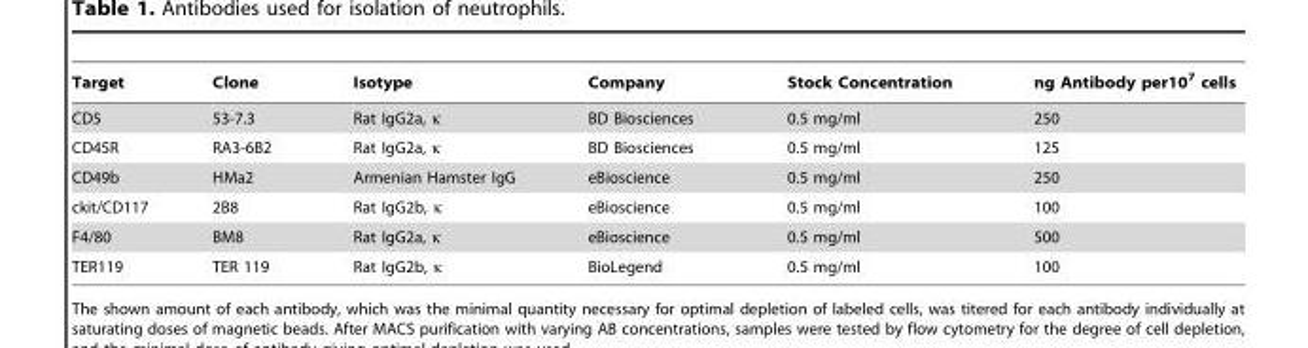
<table><thead><tr><td>Target</td><td>Clone</td><td>Isotype</td><td>Company</td><td>Stock Concentration</td><td>ng Antibody per10<sup>7</sup> cells</td></tr></thead><tbody><tr><td>CD5</td><td>53-7.3</td><td>Rat IgG2a, κ</td><td>BD Biosciences</td><td>0.5 mg/ml</td><td>250</td></tr><tr><td>CD45R</td><td>RA3-6B2</td><td>Rat IgG2a, κ</td><td>BD Biosciences</td><td>0.5 mg/ml</td><td>125</td></tr><tr><td>CD49b</td><td>HMa2</td><td>Armenian Hamster IgG</td><td>eBioscience</td><td>0.5 mg/ml</td><td>250</td></tr><tr><td>ckit/CD117</td><td>2B8</td><td>Rat IgG2b, κ</td><td>eBioscience</td><td>0.5 mg/ml</td><td>100</td></tr><tr><td>F4/80</td><td>BM8</td><td>Rat IgG2a, κ</td><td>eBioscience</td><td>0.5 mg/ml</td><td>500</td></tr><tr><td>TER119</td><td>TER 119</td><td>Rat IgG2b, κ</td><td>BioLegend</td><td>0.5 mg/ml</td><td>100</td></tr></tbody></table>